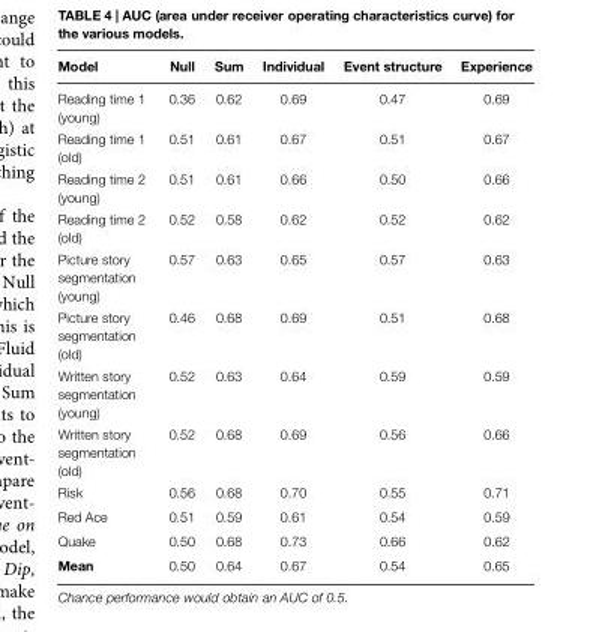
<table><thead><tr><td>Model</td><td>Null</td><td>Sum</td><td>Individual</td><td>Event structure</td><td>Experience</td></tr></thead><tbody><tr><td>Reading time 1 (young)</td><td>0.36</td><td>0.62</td><td>0.69</td><td>0.47</td><td>0.69</td></tr><tr><td>Reading time 1 (old)</td><td>0.51</td><td>0.61</td><td>0.67</td><td>0.51</td><td>0.67</td></tr><tr><td>Reading time 2 (young)</td><td>0.51</td><td>0.61</td><td>0.66</td><td>0.50</td><td>0.66</td></tr><tr><td>Reading time 2 (old)</td><td>0.52</td><td>0.58</td><td>0.62</td><td>0.52</td><td>0.62</td></tr><tr><td>Picture story segmentation (young)</td><td>0.57</td><td>0.63</td><td>0.65</td><td>0.57</td><td>0.63</td></tr><tr><td>Picture story segmentation (old)</td><td>0.46</td><td>0.68</td><td>0.69</td><td>0.51</td><td>0.68</td></tr><tr><td>Written story segmentation (young)</td><td>0.52</td><td>0.63</td><td>0.64</td><td>0.59</td><td>0.59</td></tr><tr><td>Written story segmentation (old)</td><td>0.52</td><td>0.68</td><td>0.69</td><td>0.56</td><td>0.66</td></tr><tr><td>Risk</td><td>0.56</td><td>0.68</td><td>0.70</td><td>0.55</td><td>0.71</td></tr><tr><td>Red Ace</td><td>0.51</td><td>0.59</td><td>0.61</td><td>0.54</td><td>0.59</td></tr><tr><td>Quake</td><td>0.50</td><td>0.68</td><td>0.73</td><td>0.66</td><td>0.62</td></tr><tr><td>Mean</td><td>0.50</td><td>0.64</td><td>0.67</td><td>0.54</td><td>0.65</td></tr></tbody></table>